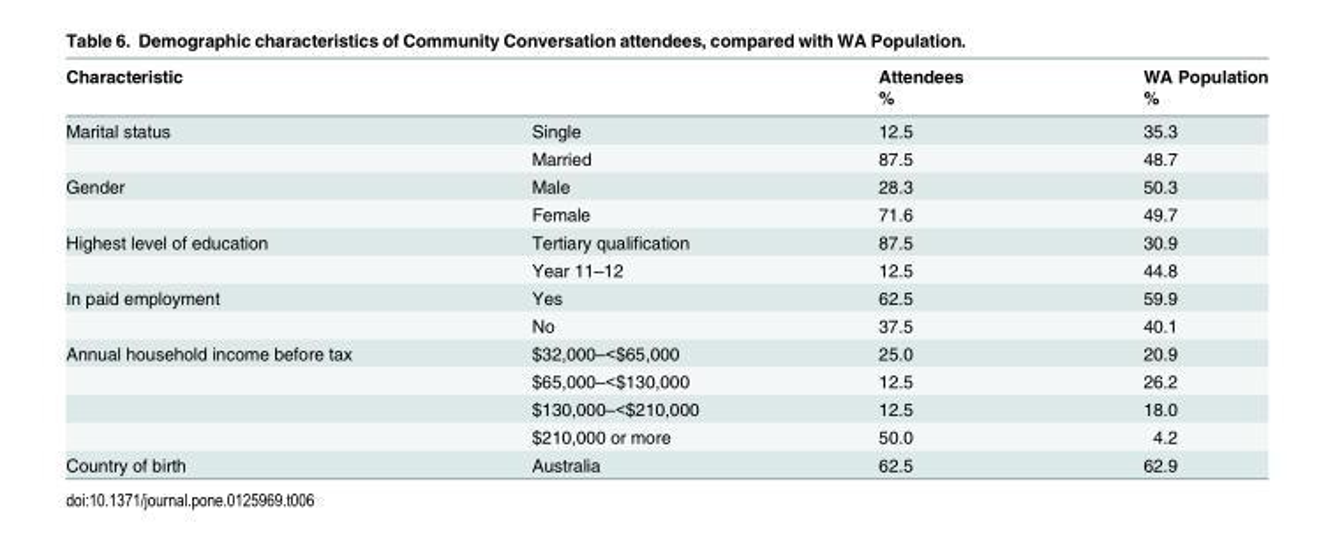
<table><thead><tr><td rowspan="2">Characteristic</td><td rowspan="2"></td><td rowspan="2">Attendees %</td><td rowspan="2">WA Population %</td></tr><tr></tr></thead><tbody><tr><td rowspan="2">Marital status</td><td>Single</td><td>12.5</td><td>35.3</td></tr><tr><td>Married</td><td>87.5</td><td>48.7</td></tr><tr><td rowspan="2">Gender</td><td>Male</td><td>28.3</td><td>50.3</td></tr><tr><td>Female</td><td>71.6</td><td>49.7</td></tr><tr><td rowspan="2">Highest level of education</td><td>Tertiary qualification</td><td>87.5</td><td>30.9</td></tr><tr><td>Year 11–12</td><td>12.5</td><td>44.8</td></tr><tr><td rowspan="2">In paid employment</td><td>Yes</td><td>62.5</td><td>59.9</td></tr><tr><td>No</td><td>37.5</td><td>40.1</td></tr><tr><td rowspan="4">Annual household income before tax</td><td>$32,000–&lt;$65,000</td><td>25.0</td><td>20.9</td></tr><tr><td>$65,000–&lt;$130,000</td><td>12.5</td><td>26.2</td></tr><tr><td>$130,000–&lt;$210,000</td><td>12.5</td><td>18.0</td></tr><tr><td>$210,000 or more</td><td>50.0</td><td>4.2</td></tr><tr><td>Country of birth</td><td>Australia</td><td>62.5</td><td>62.9</td></tr></tbody></table>